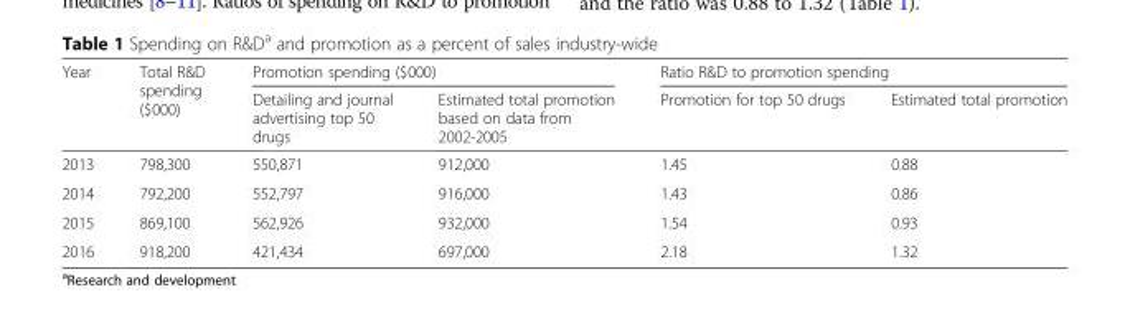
<table><thead><tr><td rowspan="2">Year</td><td rowspan="2">Total R&amp;D spending ($000)</td><td colspan="2">Promotion spending ($000)</td><td colspan="2">Ratio R&amp;D to promotion spending</td></tr><tr><td>Detailing and journal advertising top 50 drugs</td><td>Estimated total promotion based on data from 2002-2005</td><td>Promotion for top 50 drugs</td><td>Estimated total promotion</td></tr></thead><tbody><tr><td>2013</td><td>798,300</td><td>550,871</td><td>912,000</td><td>1.45</td><td>0.88</td></tr><tr><td>2014</td><td>792,200</td><td>552,797</td><td>916,000</td><td>1.43</td><td>0.86</td></tr><tr><td>2015</td><td>869,100</td><td>562,926</td><td>932,000</td><td>1.54</td><td>0.93</td></tr><tr><td>2016</td><td>918,200</td><td>421,434</td><td>697,000</td><td>2.18</td><td>1.32</td></tr></tbody></table>